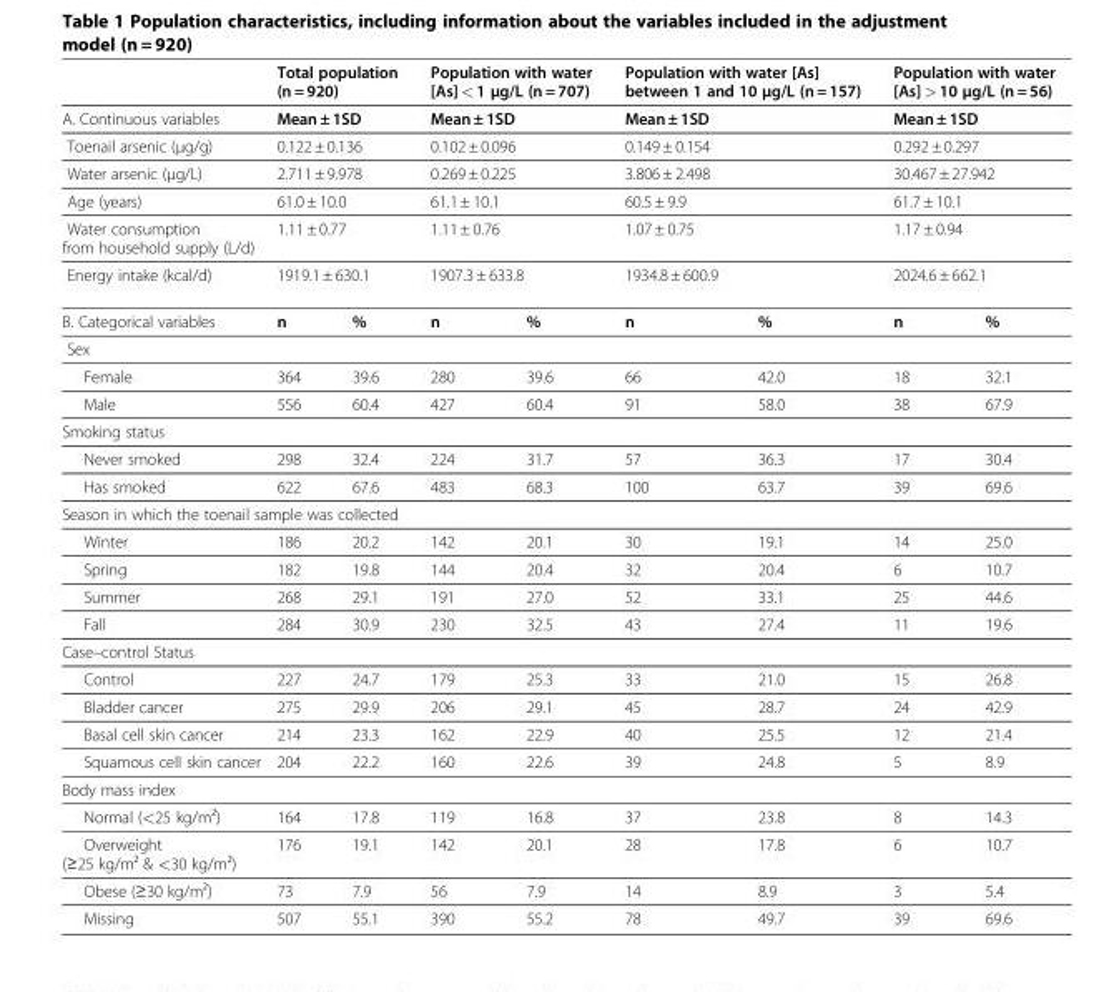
<table><thead><tr><td></td><td colspan="2">Total population (n = 920)</td><td colspan="2">Population with water [As] &lt; 1 μg/L (n = 707)</td><td colspan="2">Population with water [As] between 1 and 10 μg/L (n = 157)</td><td colspan="2">Population with water [As] &gt; 10 μg/L (n = 56)</td></tr></thead><tbody><tr><td>A. Continuous variables</td><td colspan="2">Mean ± 1SD</td><td colspan="2">Mean ± 1SD</td><td colspan="2">Mean ± 1SD</td><td colspan="2">Mean ± 1SD</td></tr><tr><td>Toenail arsenic (μg/g)</td><td colspan="2">0.122 ± 0.136</td><td colspan="2">0.102 ± 0.096</td><td colspan="2">0.149 ± 0.154</td><td colspan="2">0.292 ± 0.297</td></tr><tr><td>Water arsenic (μg/L)</td><td colspan="2">2.711 ± 9.978</td><td colspan="2">0.269 ± 0.225</td><td colspan="2">3.806 ± 2.498</td><td colspan="2">30.467 ± 27.942</td></tr><tr><td>Age (years)</td><td colspan="2">61.0 ± 10.0</td><td colspan="2">61.1 ± 10.1</td><td colspan="2">60.5 ± 9.9</td><td colspan="2">61.7 ± 10.1</td></tr><tr><td>Water consumption from household supply (L/d)</td><td colspan="2">1.11 ± 0.77</td><td colspan="2">1.11 ± 0.76</td><td colspan="2">1.07 ± 0.75</td><td colspan="2">1.17 ± 0.94</td></tr><tr><td>Energy intake (kcal/d)</td><td colspan="2">1919.1 ± 630.1</td><td colspan="2">1907.3 ± 633.8</td><td colspan="2">1934.8 ± 600.9</td><td colspan="2">2024.6 ± 662.1</td></tr><tr><td>B. Categorical variables</td><td>n</td><td>%</td><td>n</td><td>%</td><td>n</td><td>%</td><td>n</td><td>%</td></tr><tr><td colspan="9">Sex</td></tr><tr><td>Female</td><td>364</td><td>39.6</td><td>280</td><td>39.6</td><td>66</td><td>42.0</td><td>18</td><td>32.1</td></tr><tr><td>Male</td><td>556</td><td>60.4</td><td>427</td><td>60.4</td><td>91</td><td>58.0</td><td>38</td><td>67.9</td></tr><tr><td colspan="9">Smoking status</td></tr><tr><td>Never smoked</td><td>298</td><td>32.4</td><td>224</td><td>31.7</td><td>57</td><td>36.3</td><td>17</td><td>30.4</td></tr><tr><td>Has smoked</td><td>622</td><td>67.6</td><td>483</td><td>68.3</td><td>100</td><td>63.7</td><td>39</td><td>69.6</td></tr><tr><td colspan="9">Season in which the toenail sample was collected</td></tr><tr><td>Winter</td><td>186</td><td>20.2</td><td>142</td><td>20.1</td><td>30</td><td>19.1</td><td>14</td><td>25.0</td></tr><tr><td>Spring</td><td>182</td><td>19.8</td><td>144</td><td>20.4</td><td>32</td><td>20.4</td><td>6</td><td>10.7</td></tr><tr><td>Summer</td><td>268</td><td>29.1</td><td>191</td><td>27.0</td><td>52</td><td>33.1</td><td>25</td><td>44.6</td></tr><tr><td>Fall</td><td>284</td><td>30.9</td><td>230</td><td>32.5</td><td>43</td><td>27.4</td><td>11</td><td>19.6</td></tr><tr><td colspan="9">Case–control Status</td></tr><tr><td>Control</td><td>227</td><td>24.7</td><td>179</td><td>25.3</td><td>33</td><td>21.0</td><td>15</td><td>26.8</td></tr><tr><td>Bladder cancer</td><td>275</td><td>29.9</td><td>206</td><td>29.1</td><td>45</td><td>28.7</td><td>24</td><td>42.9</td></tr><tr><td>Basal cell skin cancer</td><td>214</td><td>23.3</td><td>162</td><td>22.9</td><td>40</td><td>25.5</td><td>12</td><td>21.4</td></tr><tr><td>Squamous cell skin cancer</td><td>204</td><td>22.2</td><td>160</td><td>22.6</td><td>39</td><td>24.8</td><td>5</td><td>8.9</td></tr><tr><td colspan="9">Body mass index</td></tr><tr><td>Normal (&lt;25 kg/m²)</td><td>164</td><td>17.8</td><td>119</td><td>16.8</td><td>37</td><td>23.8</td><td>8</td><td>14.3</td></tr><tr><td>Overweight (≥25 kg/m² &amp; &lt;30 kg/m²)</td><td>176</td><td>19.1</td><td>142</td><td>20.1</td><td>28</td><td>17.8</td><td>6</td><td>10.7</td></tr><tr><td>Obese (≥30 kg/m²)</td><td>73</td><td>7.9</td><td>56</td><td>7.9</td><td>14</td><td>8.9</td><td>3</td><td>5.4</td></tr><tr><td>Missing</td><td>507</td><td>55.1</td><td>390</td><td>55.2</td><td>78</td><td>49.7</td><td>39</td><td>69.6</td></tr></tbody></table>